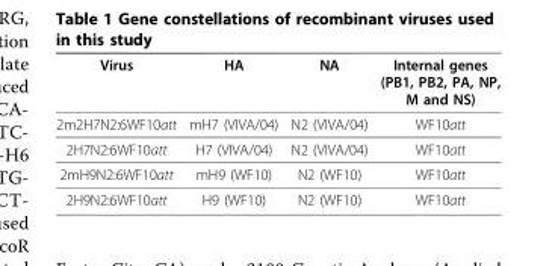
<table><thead><tr><td>Virus</td><td>HA</td><td>NA</td><td>Internal genes (PB1, PB2, PA, NP, M and NS)</td></tr></thead><tbody><tr><td>2m2H7N2:6WF10att</td><td>mH7 (VIVA/04)</td><td>N2 (VIVA/04)</td><td>WF10att</td></tr><tr><td>2H7N2:6WF10att</td><td>H7 (VIVA/04)</td><td>N2 (VIVA/04)</td><td>WF10att</td></tr><tr><td>2mH9N2:6WF10att</td><td>mH9 (WF10)</td><td>N2 (WF10)</td><td>WF10att</td></tr><tr><td>2H9N2:6WF10att</td><td>H9 (WF10)</td><td>N2 (WF10)</td><td>WF10att</td></tr></tbody></table>